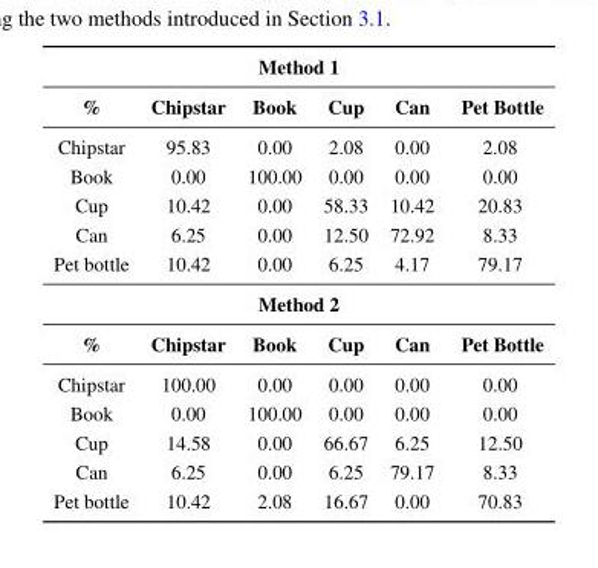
<table><thead><tr><td colspan="6">Method 1</td></tr><tr><td>%</td><td>Chipstar</td><td>Book</td><td>Cup</td><td>Can</td><td>Pet Bottle</td></tr></thead><tbody><tr><td>Chipstar</td><td>95.83</td><td>0.00</td><td>2.08</td><td>0.00</td><td>2.08</td></tr><tr><td>Book</td><td>0.00</td><td>100.00</td><td>0.00</td><td>0.00</td><td>0.00</td></tr><tr><td>Cup</td><td>10.42</td><td>0.00</td><td>58.33</td><td>10.42</td><td>20.83</td></tr><tr><td>Can</td><td>6.25</td><td>0.00</td><td>12.50</td><td>72.92</td><td>8.33</td></tr><tr><td>Pet bottle</td><td>10.42</td><td>0.00</td><td>6.25</td><td>4.17</td><td>79.17</td></tr><tr><td colspan="6">Method 2</td></tr><tr><td>%</td><td>Chipstar</td><td>Book</td><td>Cup</td><td>Can</td><td>Pet Bottle</td></tr><tr><td>Chipstar</td><td>100.00</td><td>0.00</td><td>0.00</td><td>0.00</td><td>0.00</td></tr><tr><td>Book</td><td>0.00</td><td>100.00</td><td>0.00</td><td>0.00</td><td>0.00</td></tr><tr><td>Cup</td><td>14.58</td><td>0.00</td><td>66.67</td><td>6.25</td><td>12.50</td></tr><tr><td>Can</td><td>6.25</td><td>0.00</td><td>6.25</td><td>79.17</td><td>8.33</td></tr><tr><td>Pet bottle</td><td>10.42</td><td>2.08</td><td>16.67</td><td>0.00</td><td>70.83</td></tr></tbody></table>